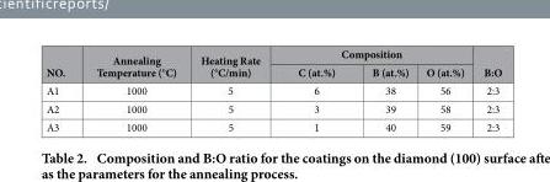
<table><thead><tr><td rowspan="2">NO.</td><td rowspan="2">Annealing Temperature (°C)</td><td rowspan="2">Heating Rate (°C/min)</td><td colspan="3">Composition</td><td rowspan="2">B:O</td></tr><tr><td>C (at.%)</td><td>B (at.%)</td><td>O (at.%)</td></tr></thead><tbody><tr><td>A1</td><td>1000</td><td>5</td><td>6</td><td>38</td><td>56</td><td>2:3</td></tr><tr><td>A2</td><td>1000</td><td>5</td><td>3</td><td>39</td><td>58</td><td>2:3</td></tr><tr><td>A3</td><td>1000</td><td>5</td><td>1</td><td>40</td><td>59</td><td>2:3</td></tr></tbody></table>